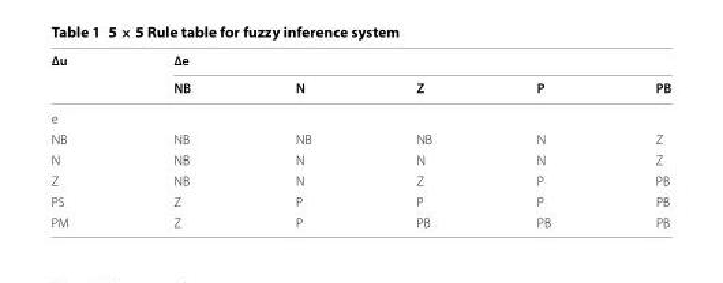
<table><thead><tr><td rowspan="2">∆u</td><td colspan="5">∆e</td></tr><tr><td>NB</td><td>N</td><td>Z</td><td>P</td><td>PB</td></tr></thead><tbody><tr><td colspan="6">e</td></tr><tr><td>NB</td><td>NB</td><td>NB</td><td>NB</td><td>N</td><td>Z</td></tr><tr><td>N</td><td>NB</td><td>N</td><td>N</td><td>N</td><td>Z</td></tr><tr><td>Z</td><td>NB</td><td>N</td><td>Z</td><td>P</td><td>PB</td></tr><tr><td>PS</td><td>Z</td><td>P</td><td>P</td><td>P</td><td>PB</td></tr><tr><td>PM</td><td>Z</td><td>P</td><td>PB</td><td>PB</td><td>PB</td></tr></tbody></table>